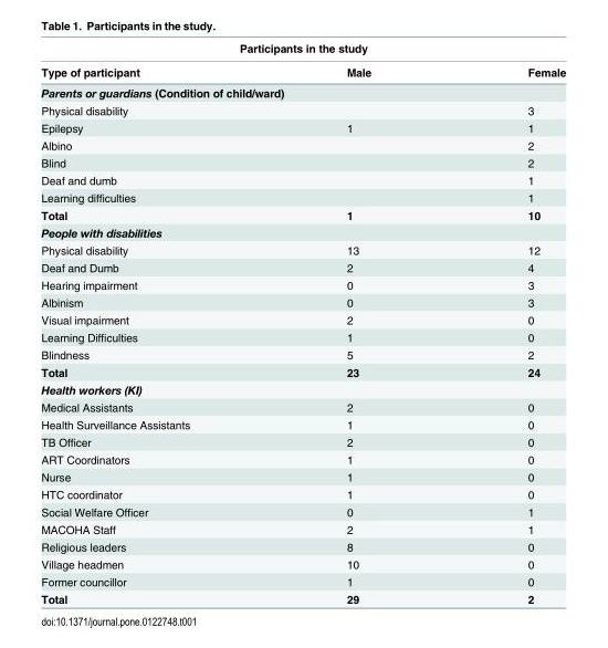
<table><thead><tr><td colspan="3">Participants in the study</td></tr><tr><td>Type of participant</td><td>Male</td><td>Female</td></tr></thead><tbody><tr><td colspan="3">Parents or guardians (Condition of child/ward)</td></tr><tr><td>Physical disability</td><td></td><td>3</td></tr><tr><td>Epilepsy</td><td>1</td><td>1</td></tr><tr><td>Albino</td><td></td><td>2</td></tr><tr><td>Blind</td><td></td><td>2</td></tr><tr><td>Deaf and dumb</td><td></td><td>1</td></tr><tr><td>Learning difficulties</td><td></td><td>1</td></tr><tr><td>Total</td><td>1</td><td>10</td></tr><tr><td colspan="3">People with disabilities</td></tr><tr><td>Physical disability</td><td>13</td><td>12</td></tr><tr><td>Deaf and Dumb</td><td>2</td><td>4</td></tr><tr><td>Hearing impairment</td><td>0</td><td>3</td></tr><tr><td>Albinism</td><td>0</td><td>3</td></tr><tr><td>Visual impairment</td><td>2</td><td>0</td></tr><tr><td>Learning Difficulties</td><td>1</td><td>0</td></tr><tr><td>Blindness</td><td>5</td><td>2</td></tr><tr><td>Total</td><td>23</td><td>24</td></tr><tr><td colspan="3">Health workers (KI)</td></tr><tr><td>Medical Assistants</td><td>2</td><td>0</td></tr><tr><td>Health Surveillance Assistants</td><td>1</td><td>0</td></tr><tr><td>TB Officer</td><td>2</td><td>0</td></tr><tr><td>ART Coordinators</td><td>1</td><td>0</td></tr><tr><td>Nurse</td><td>1</td><td>0</td></tr><tr><td>HTC coordinator</td><td>1</td><td>0</td></tr><tr><td>Social Welfare Officer</td><td>0</td><td>1</td></tr><tr><td>MACOHA Staff</td><td>2</td><td>1</td></tr><tr><td>Religious leaders</td><td>8</td><td>0</td></tr><tr><td>Village headmen</td><td>10</td><td>0</td></tr><tr><td>Former councillor</td><td>1</td><td>0</td></tr><tr><td>Total</td><td>29</td><td>2</td></tr></tbody></table>